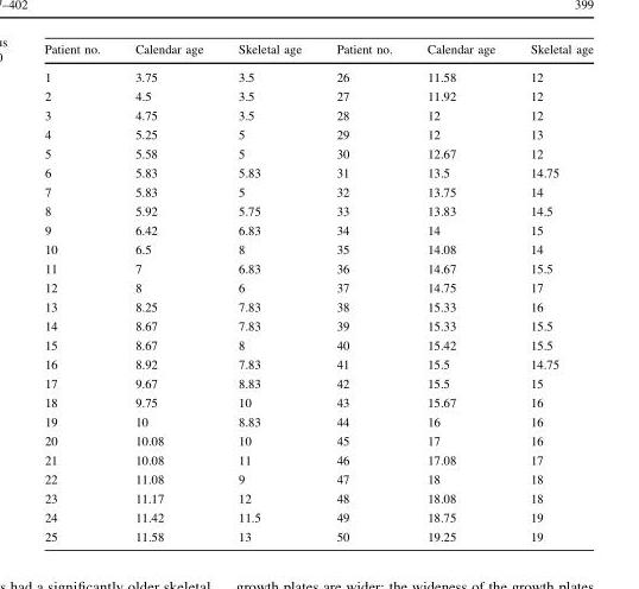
<table><thead><tr><td>Patient no.</td><td>Calendar age</td><td>Skeletal age</td><td>Patient no.</td><td>Calendar age</td><td>Skeletal age</td></tr></thead><tbody><tr><td>1</td><td>3.75</td><td>3.5</td><td>26</td><td>11.58</td><td>12</td></tr><tr><td>2</td><td>4.5</td><td>3.5</td><td>27</td><td>11.92</td><td>12</td></tr><tr><td>3</td><td>4.75</td><td>3.5</td><td>28</td><td>12</td><td>12</td></tr><tr><td>4</td><td>5.25</td><td>5</td><td>29</td><td>12</td><td>13</td></tr><tr><td>5</td><td>5.58</td><td>5</td><td>30</td><td>12.67</td><td>12</td></tr><tr><td>6</td><td>5.83</td><td>5.83</td><td>31</td><td>13.5</td><td>14.75</td></tr><tr><td>7</td><td>5.83</td><td>5</td><td>32</td><td>13.75</td><td>14</td></tr><tr><td>8</td><td>5.92</td><td>5.75</td><td>33</td><td>13.83</td><td>14.5</td></tr><tr><td>9</td><td>6.42</td><td>6.83</td><td>34</td><td>14</td><td>15</td></tr><tr><td>10</td><td>6.5</td><td>8</td><td>35</td><td>14.08</td><td>14</td></tr><tr><td>11</td><td>7</td><td>6.83</td><td>36</td><td>14.67</td><td>15.5</td></tr><tr><td>12</td><td>8</td><td>6</td><td>37</td><td>14.75</td><td>17</td></tr><tr><td>13</td><td>8.25</td><td>7.83</td><td>38</td><td>15.33</td><td>16</td></tr><tr><td>14</td><td>8.67</td><td>7.83</td><td>39</td><td>15.33</td><td>15.5</td></tr><tr><td>15</td><td>8.67</td><td>8</td><td>40</td><td>15.42</td><td>15.5</td></tr><tr><td>16</td><td>8.92</td><td>7.83</td><td>41</td><td>15.5</td><td>14.75</td></tr><tr><td>17</td><td>9.67</td><td>8.83</td><td>42</td><td>15.5</td><td>15</td></tr><tr><td>18</td><td>9.75</td><td>10</td><td>43</td><td>15.67</td><td>16</td></tr><tr><td>19</td><td>10</td><td>8.83</td><td>44</td><td>16</td><td>16</td></tr><tr><td>20</td><td>10.08</td><td>10</td><td>45</td><td>17</td><td>16</td></tr><tr><td>21</td><td>10.08</td><td>11</td><td>46</td><td>17.08</td><td>17</td></tr><tr><td>22</td><td>11.08</td><td>9</td><td>47</td><td>18</td><td>18</td></tr><tr><td>23</td><td>11.17</td><td>12</td><td>48</td><td>18.08</td><td>18</td></tr><tr><td>24</td><td>11.42</td><td>11.5</td><td>49</td><td>18.75</td><td>19</td></tr><tr><td>25</td><td>11.58</td><td>13</td><td>50</td><td>19.25</td><td>19</td></tr></tbody></table>